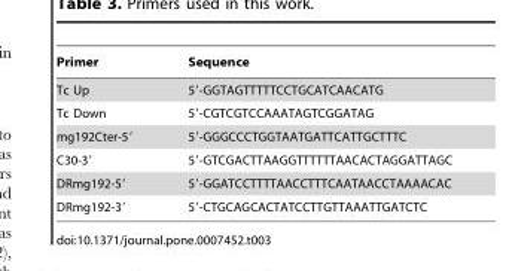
<table><thead><tr><td>Primer</td><td>Sequence</td></tr></thead><tbody><tr><td>Tc Up</td><td>5′-GGTAGTTTTTCCTGCATCAACATG</td></tr><tr><td>Tc Down</td><td>5′-CGTCGTCCAAATAGTCGGATAG</td></tr><tr><td>mg192Cter-5′</td><td>5′-GGGCCCTGGTAATGATTCATTGCTTTC</td></tr><tr><td>C30-3′</td><td>5′-GTCGACTTAAGGTTTTTTAACACTAGGATTAGC</td></tr><tr><td>DRmg192-5′</td><td>5′-GGATCCTTTTAACCTTTCAATAACCTAAAACAC</td></tr><tr><td>DRmg192-3′</td><td>5′-CTGCAGCACTATCCTTGTTAAATTGATCTC</td></tr></tbody></table>